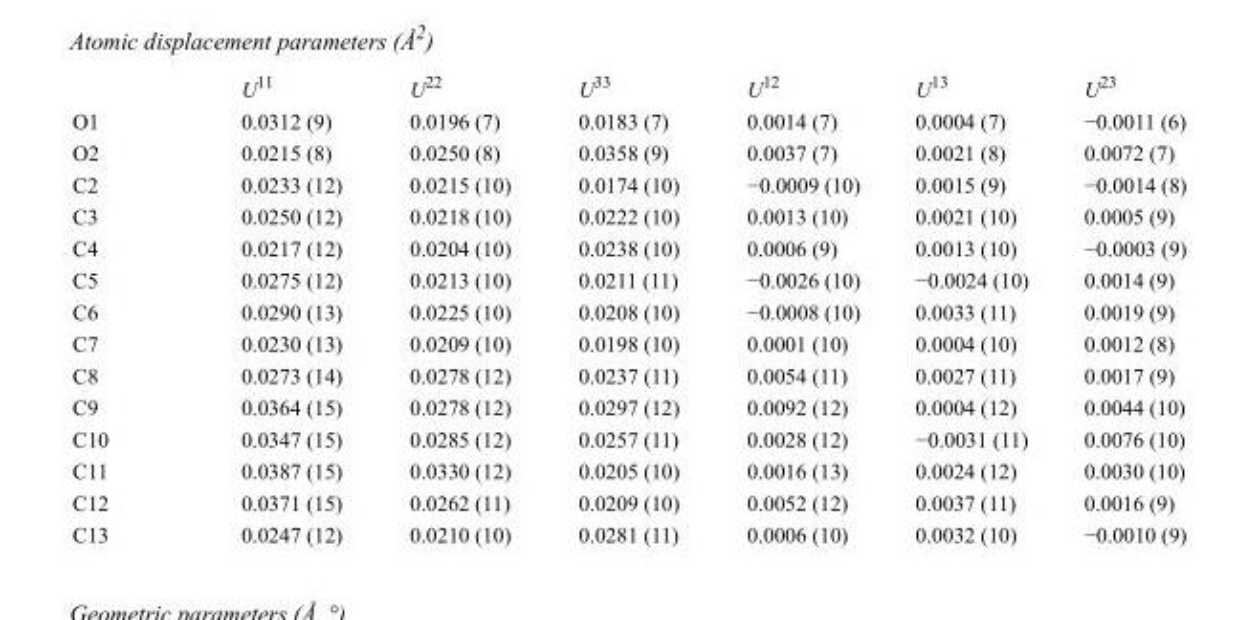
<table><thead><tr><td></td><td>U<sup>11</sup></td><td>U<sup>22</sup></td><td>U<sup>33</sup></td><td>U<sup>12</sup></td><td>U<sup>13</sup></td><td>U<sup>23</sup></td></tr></thead><tbody><tr><td>O1</td><td>0.0312 (9)</td><td>0.0196 (7)</td><td>0.0183 (7)</td><td>0.0014 (7)</td><td>0.0004 (7)</td><td>−0.0011 (6)</td></tr><tr><td>O2</td><td>0.0215 (8)</td><td>0.0250 (8)</td><td>0.0358 (9)</td><td>0.0037 (7)</td><td>0.0021 (8)</td><td>0.0072 (7)</td></tr><tr><td>C2</td><td>0.0233 (12)</td><td>0.0215 (10)</td><td>0.0174 (10)</td><td>−0.0009 (10)</td><td>0.0015 (9)</td><td>−0.0014 (8)</td></tr><tr><td>C3</td><td>0.0250 (12)</td><td>0.0218 (10)</td><td>0.0222 (10)</td><td>0.0013 (10)</td><td>0.0021 (10)</td><td>0.0005 (9)</td></tr><tr><td>C4</td><td>0.0217 (12)</td><td>0.0204 (10)</td><td>0.0238 (10)</td><td>0.0006 (9)</td><td>0.0013 (10)</td><td>−0.0003 (9)</td></tr><tr><td>C5</td><td>0.0275 (12)</td><td>0.0213 (10)</td><td>0.0211 (11)</td><td>−0.0026 (10)</td><td>−0.0024 (10)</td><td>0.0014 (9)</td></tr><tr><td>C6</td><td>0.0290 (13)</td><td>0.0225 (10)</td><td>0.0208 (10)</td><td>−0.0008 (10)</td><td>0.0033 (11)</td><td>0.0019 (9)</td></tr><tr><td>C7</td><td>0.0230 (13)</td><td>0.0209 (10)</td><td>0.0198 (10)</td><td>0.0001 (10)</td><td>0.0004 (10)</td><td>0.0012 (8)</td></tr><tr><td>C8</td><td>0.0273 (14)</td><td>0.0278 (12)</td><td>0.0237 (11)</td><td>0.0054 (11)</td><td>0.0027 (11)</td><td>0.0017 (9)</td></tr><tr><td>C9</td><td>0.0364 (15)</td><td>0.0278 (12)</td><td>0.0297 (12)</td><td>0.0092 (12)</td><td>0.0004 (12)</td><td>0.0044 (10)</td></tr><tr><td>C10</td><td>0.0347 (15)</td><td>0.0285 (12)</td><td>0.0257 (11)</td><td>0.0028 (12)</td><td>−0.0031 (11)</td><td>0.0076 (10)</td></tr><tr><td>C11</td><td>0.0387 (15)</td><td>0.0330 (12)</td><td>0.0205 (10)</td><td>0.0016 (13)</td><td>0.0024 (12)</td><td>0.0030 (10)</td></tr><tr><td>C12</td><td>0.0371 (15)</td><td>0.0262 (11)</td><td>0.0209 (10)</td><td>0.0052 (12)</td><td>0.0037 (11)</td><td>0.0016 (9)</td></tr><tr><td>C13</td><td>0.0247 (12)</td><td>0.0210 (10)</td><td>0.0281 (11)</td><td>0.0006 (10)</td><td>0.0032 (10)</td><td>−0.0010 (9)</td></tr></tbody></table>